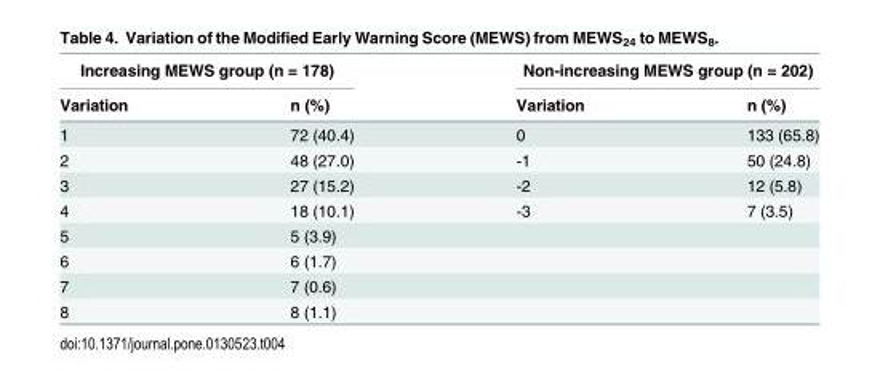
<table><thead><tr><td colspan="2">Increasing MEWS group (n = 178)</td><td colspan="2">Non-increasing MEWS group (n = 202)</td></tr><tr><td>Variation</td><td>n (%)</td><td>Variation</td><td>n (%)</td></tr></thead><tbody><tr><td>1</td><td>72 (40.4)</td><td>0</td><td>133 (65.8)</td></tr><tr><td>2</td><td>48 (27.0)</td><td>-1</td><td>50 (24.8)</td></tr><tr><td>3</td><td>27 (15.2)</td><td>-2</td><td>12 (5.8)</td></tr><tr><td>4</td><td>18 (10.1)</td><td>-3</td><td>7 (3.5)</td></tr><tr><td>5</td><td>5 (3.9)</td><td></td><td></td></tr><tr><td>6</td><td>6 (1.7)</td><td></td><td></td></tr><tr><td>7</td><td>7 (0.6)</td><td></td><td></td></tr><tr><td>8</td><td>8 (1.1)</td><td></td><td></td></tr></tbody></table>